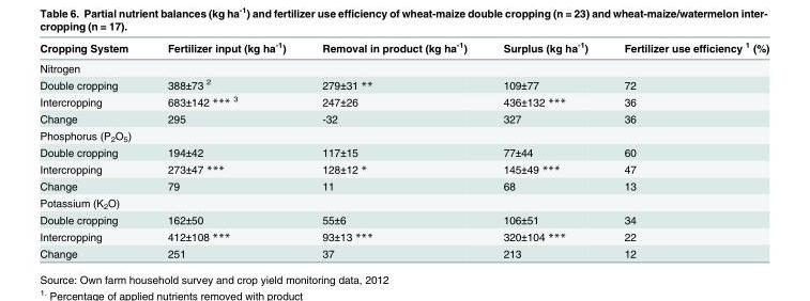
<table><thead><tr><td>Cropping System</td><td>Fertilizer input (kg ha<sup>-1</sup>)</td><td>Removal in product (kg ha<sup>-1</sup>)</td><td>Surplus (kg ha<sup>-1</sup>)</td><td>Fertilizer use efficiency <sup>1</sup> (%)</td></tr></thead><tbody><tr><td colspan="5">Nitrogen</td></tr><tr><td>Double cropping</td><td>388±73 <sup>2</sup></td><td>279±31 **</td><td>109±77</td><td>72</td></tr><tr><td>Intercropping</td><td>683±142 *** <sup>3</sup></td><td>247±26</td><td>436±132 ***</td><td>36</td></tr><tr><td>Change</td><td>295</td><td>-32</td><td>327</td><td>36</td></tr><tr><td colspan="5">Phosphorus (P<sub>2</sub>O<sub>5</sub>)</td></tr><tr><td>Double cropping</td><td>194±42</td><td>117±15</td><td>77±44</td><td>60</td></tr><tr><td>Intercropping</td><td>273±47 ***</td><td>128±12 *</td><td>145±49 ***</td><td>47</td></tr><tr><td>Change</td><td>79</td><td>11</td><td>68</td><td>13</td></tr><tr><td colspan="5">Potassium (K<sub>2</sub>O)</td></tr><tr><td>Double cropping</td><td>162±50</td><td>55±6</td><td>106±51</td><td>34</td></tr><tr><td>Intercropping</td><td>412±108 ***</td><td>93±13 ***</td><td>320±104 ***</td><td>22</td></tr><tr><td>Change</td><td>251</td><td>37</td><td>213</td><td>12</td></tr></tbody></table>